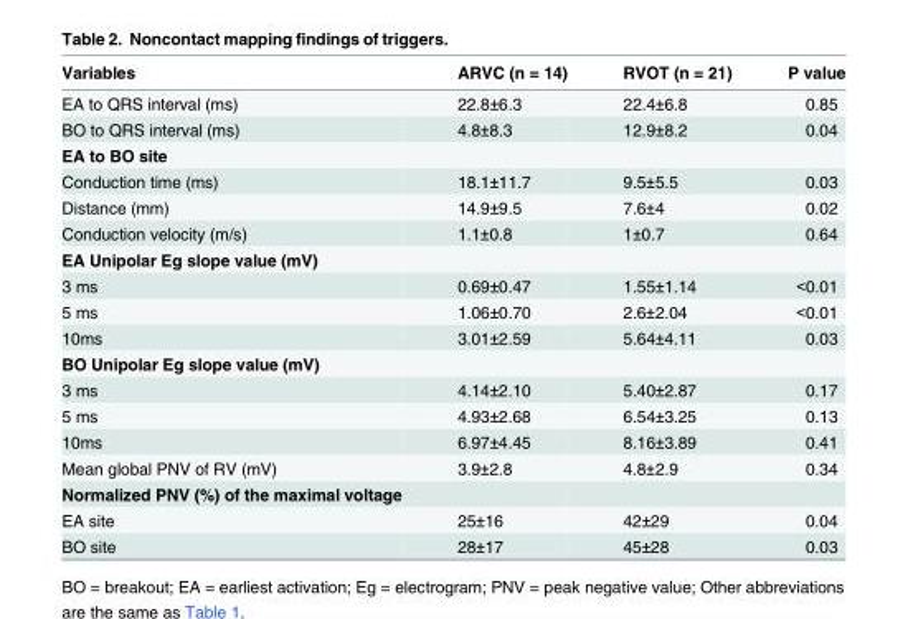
<table><thead><tr><td>Variables</td><td>ARVC (n = 14)</td><td>RVOT (n = 21)</td><td>P value</td></tr></thead><tbody><tr><td>EA to QRS interval (ms)</td><td>22.8±6.3</td><td>22.4±6.8</td><td>0.85</td></tr><tr><td>BO to QRS interval (ms)</td><td>4.8±8.3</td><td>12.9±8.2</td><td>0.04</td></tr><tr><td colspan="4">EA to BO site</td></tr><tr><td>Conduction time (ms)</td><td>18.1±11.7</td><td>9.5±5.5</td><td>0.03</td></tr><tr><td>Distance (mm)</td><td>14.9±9.5</td><td>7.6±4</td><td>0.02</td></tr><tr><td>Conduction velocity (m/s)</td><td>1.1±0.8</td><td>1±0.7</td><td>0.64</td></tr><tr><td colspan="4">EA Unipolar Eg slope value (mV)</td></tr><tr><td>3 ms</td><td>0.69±0.47</td><td>1.55±1.14</td><td>&lt;0.01</td></tr><tr><td>5 ms</td><td>1.06±0.70</td><td>2.6±2.04</td><td>&lt;0.01</td></tr><tr><td>10ms</td><td>3.01±2.59</td><td>5.64±4.11</td><td>0.03</td></tr><tr><td colspan="4">BO Unipolar Eg slope value (mV)</td></tr><tr><td>3 ms</td><td>4.14±2.10</td><td>5.40±2.87</td><td>0.17</td></tr><tr><td>5 ms</td><td>4.93±2.68</td><td>6.54±3.25</td><td>0.13</td></tr><tr><td>10ms</td><td>6.97±4.45</td><td>8.16±3.89</td><td>0.41</td></tr><tr><td>Mean global PNV of RV (mV)</td><td>3.9±2.8</td><td>4.8±2.9</td><td>0.34</td></tr><tr><td colspan="4">Normalized PNV (%) of the maximal voltage</td></tr><tr><td>EA site</td><td>25±16</td><td>42±29</td><td>0.04</td></tr><tr><td>BO site</td><td>28±17</td><td>45±28</td><td>0.03</td></tr></tbody></table>